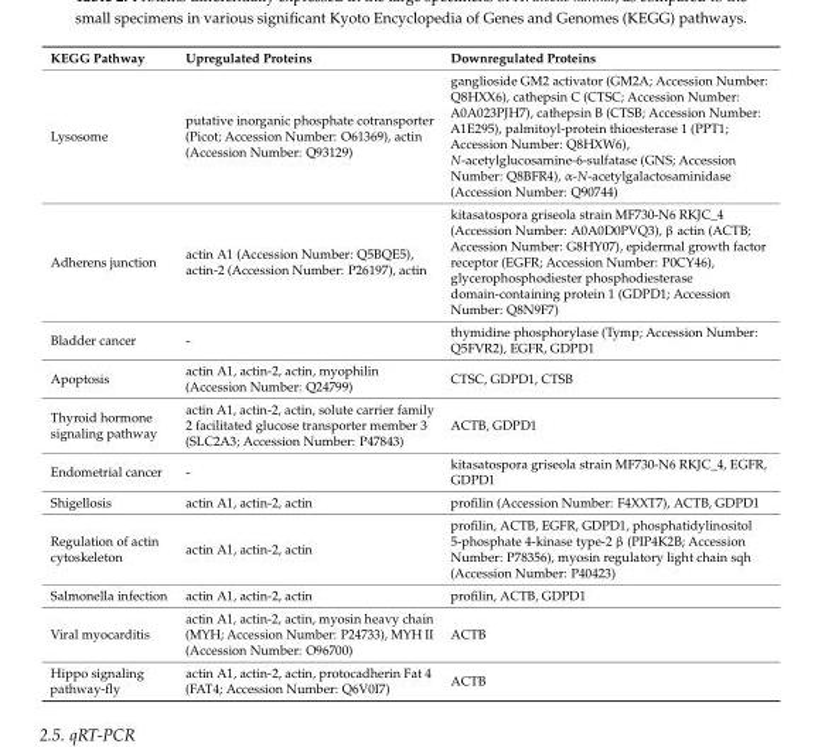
<table><thead><tr><td>KEGG Pathway</td><td>Upregulated Proteins</td><td>Downregulated Proteins</td></tr></thead><tbody><tr><td>Lysosome</td><td>putative inorganic phosphate cotransporter (Picot; Accession Number: O61369), actin (Accession Number: Q93129)</td><td>ganglioside GM2 activator (GM2A; Accession Number: Q8HXX6), cathepsin C (CTSC; Accession Number: A0A023PJH7), cathepsin B (CTSB; Accession Number: A1E295), palmitoyl-protein thioesterase 1 (PPT1; Accession Number: Q8HXW6), N-acetylglucosamine-6-sulfatase (GNS; Accession Number: Q8BFR4), α-N-acetylgalactosaminidase (Accession Number: Q90744)</td></tr><tr><td>Adherens junction</td><td>actin A1 (Accession Number: Q5BQE5), actin-2 (Accession Number: P26197), actin</td><td>kitasatospora griseola strain MF730-N6 RKJC_4 (Accession Number: A0A0D0PVQ3), β actin (ACTB; Accession Number: G8HY07), epidermal growth factor receptor (EGFR; Accession Number: P0CY46), glycerophosphodiester phosphodiesterase domain-containing protein 1 (GDPD1; Accession Number: Q8N9F7)</td></tr><tr><td>Bladder cancer</td><td>-</td><td>thymidine phosphorylase (Tymp; Accession Number: Q5FVR2), EGFR, GDPD1</td></tr><tr><td>Apoptosis</td><td>actin A1, actin-2, actin, myophilin (Accession Number: Q24799)</td><td>CTSC, GDPD1, CTSB</td></tr><tr><td>Thyroid hormone signaling pathway</td><td>actin A1, actin-2, actin, solute carrier family 2 facilitated glucose transporter member 3 (SLC2A3; Accession Number: P47843)</td><td>ACTB, GDPD1</td></tr><tr><td>Endometrial cancer</td><td>-</td><td>kitasatospora griseola strain MF730-N6 RKJC_4, EGFR, GDPD1</td></tr><tr><td>Shigellosis</td><td>actin A1, actin-2, actin</td><td>profilin (Accession Number: F4XXT7), ACTB, GDPD1</td></tr><tr><td>Regulation of actin cytoskeleton</td><td>actin A1, actin-2, actin</td><td>profilin, ACTB, EGFR, GDPD1, phosphatidylinositol 5-phosphate 4-kinase type-2 β (PIP4K2B; Accession Number: P78356), myosin regulatory light chain sqh (Accession Number: P40423)</td></tr><tr><td>Salmonella infection</td><td>actin A1, actin-2, actin</td><td>profilin, ACTB, GDPD1</td></tr><tr><td>Viral myocarditis</td><td>actin A1, actin-2, actin, myosin heavy chain (MYH; Accession Number: P24733), MYH II (Accession Number: O96700)</td><td>ACTB</td></tr><tr><td>Hippo signaling pathway-fly</td><td>actin A1, actin-2, actin, protocadherin Fat 4 (FAT4; Accession Number: Q6V0I7)</td><td>ACTB</td></tr></tbody></table>